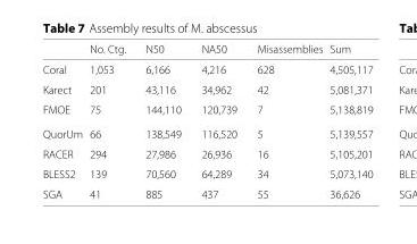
<table><thead><tr><td></td><td>No. Ctg.</td><td>N50</td><td>NA50</td><td>Misassemblies</td><td>Sum</td></tr></thead><tbody><tr><td>Coral</td><td>1,053</td><td>6,166</td><td>4,216</td><td>628</td><td>4,505,117</td></tr><tr><td>Karect</td><td>201</td><td>43,116</td><td>34,962</td><td>42</td><td>5,081,371</td></tr><tr><td>FMOE</td><td>75</td><td>144,110</td><td>120,739</td><td>7</td><td>5,138,819</td></tr><tr><td>QuorUm</td><td>66</td><td>138,549</td><td>116,520</td><td>5</td><td>5,139,557</td></tr><tr><td>RACER</td><td>294</td><td>27,986</td><td>26,936</td><td>16</td><td>5,105,201</td></tr><tr><td>BLESS2</td><td>139</td><td>70,560</td><td>64,289</td><td>34</td><td>5,073,140</td></tr><tr><td>SGA</td><td>41</td><td>885</td><td>437</td><td>55</td><td>36,626</td></tr></tbody></table>